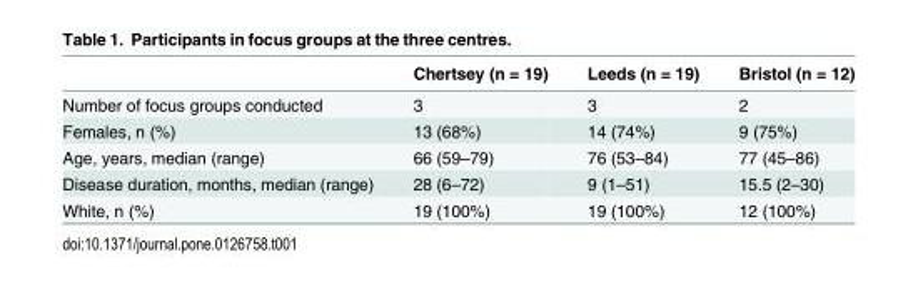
<table><thead><tr><td></td><td>Chertsey (n = 19)</td><td>Leeds (n = 19)</td><td>Bristol (n = 12)</td></tr></thead><tbody><tr><td>Number of focus groups conducted</td><td>3</td><td>3</td><td>2</td></tr><tr><td>Females, n (%)</td><td>13 (68%)</td><td>14 (74%)</td><td>9 (75%)</td></tr><tr><td>Age, years, median (range)</td><td>66 (59–79)</td><td>76 (53–84)</td><td>77 (45–86)</td></tr><tr><td>Disease duration, months, median (range)</td><td>28 (6–72)</td><td>9 (1–51)</td><td>15.5 (2–30)</td></tr><tr><td>White, n (%)</td><td>19 (100%)</td><td>19 (100%)</td><td>12 (100%)</td></tr></tbody></table>